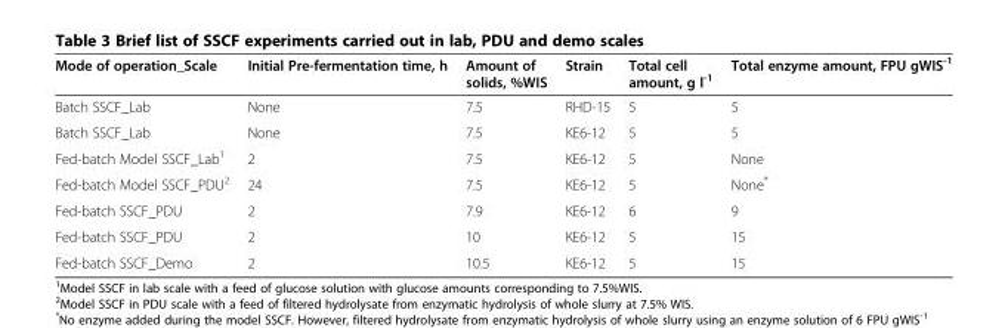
<table><thead><tr><td>Mode of operation_Scale</td><td>Initial Pre-fermentation time, h</td><td>Amount of solids, %WIS</td><td>Strain</td><td>Total cell amount, g l<sup>-1</sup></td><td>Total enzyme amount, FPU gWIS<sup>-1</sup></td></tr></thead><tbody><tr><td>Batch SSCF_Lab</td><td>None</td><td>7.5</td><td>RHD-15</td><td>5</td><td>5</td></tr><tr><td>Batch SSCF_Lab</td><td>None</td><td>7.5</td><td>KE6-12</td><td>5</td><td>5</td></tr><tr><td>Fed-batch Model SSCF_Lab<sup>1</sup></td><td>2</td><td>7.5</td><td>KE6-12</td><td>5</td><td>None</td></tr><tr><td>Fed-batch Model SSCF_PDU<sup>2</sup></td><td>24</td><td>7.5</td><td>KE6-12</td><td>5</td><td>None*</td></tr><tr><td>Fed-batch SSCF_PDU</td><td>2</td><td>7.9</td><td>KE6-12</td><td>6</td><td>9</td></tr><tr><td>Fed-batch SSCF_PDU</td><td>2</td><td>10</td><td>KE6-12</td><td>5</td><td>15</td></tr><tr><td>Fed-batch SSCF_Demo</td><td>2</td><td>10.5</td><td>KE6-12</td><td>5</td><td>15</td></tr></tbody></table>